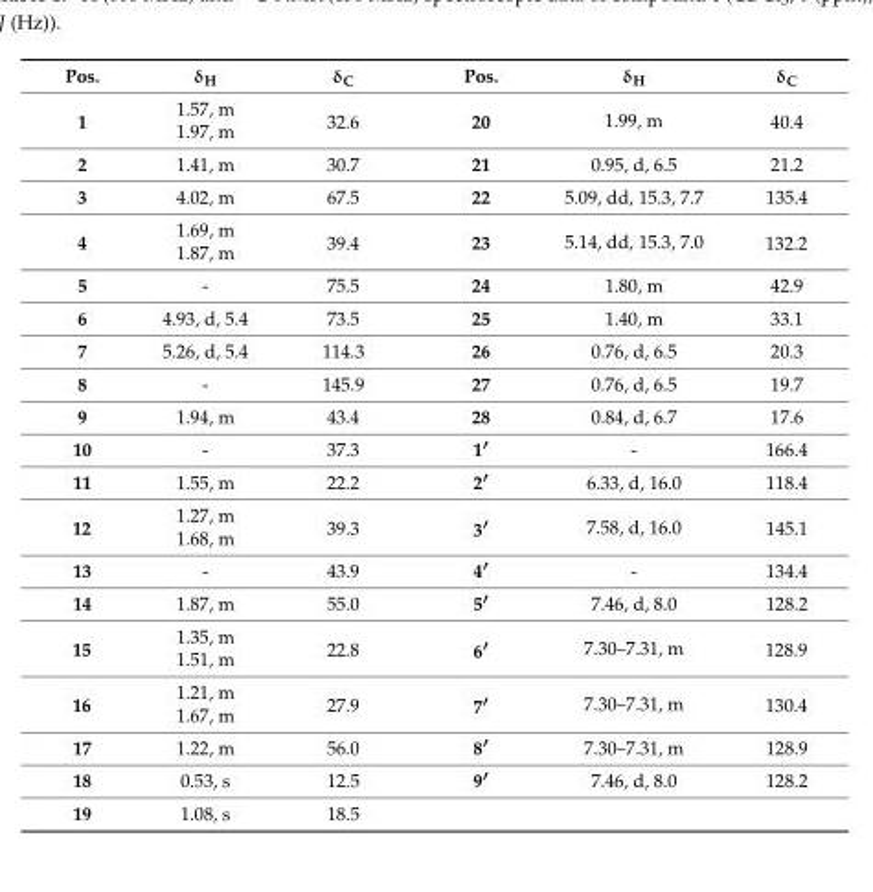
<table><thead><tr><td>Pos.</td><td>δ<sub>H</sub></td><td>δ<sub>C</sub></td><td>Pos.</td><td>δ<sub>H</sub></td><td>δ<sub>C</sub></td></tr></thead><tbody><tr><td rowspan="2">1</td><td>1.57, m</td><td rowspan="2">32.6</td><td rowspan="2">20</td><td rowspan="2">1.99, m</td><td rowspan="2">40.4</td></tr><tr><td>1.97, m</td></tr><tr><td>2</td><td>1.41, m</td><td>30.7</td><td>21</td><td>0.95, d, 6.5</td><td>21.2</td></tr><tr><td>3</td><td>4.02, m</td><td>67.5</td><td>22</td><td>5.09, dd, 15.3, 7.7</td><td>135.4</td></tr><tr><td rowspan="2">4</td><td>1.69, m</td><td rowspan="2">39.4</td><td rowspan="2">23</td><td rowspan="2">5.14, dd, 15.3, 7.0</td><td rowspan="2">132.2</td></tr><tr><td>1.87, m</td></tr><tr><td>5</td><td>-</td><td>75.5</td><td>24</td><td>1.80, m</td><td>42.9</td></tr><tr><td>6</td><td>4.93, d, 5.4</td><td>73.5</td><td>25</td><td>1.40, m</td><td>33.1</td></tr><tr><td>7</td><td>5.26, d, 5.4</td><td>114.3</td><td>26</td><td>0.76, d, 6.5</td><td>20.3</td></tr><tr><td>8</td><td>-</td><td>145.9</td><td>27</td><td>0.76, d, 6.5</td><td>19.7</td></tr><tr><td>9</td><td>1.94, m</td><td>43.4</td><td>28</td><td>0.84, d, 6.7</td><td>17.6</td></tr><tr><td>10</td><td>-</td><td>37.3</td><td>1′</td><td>-</td><td>166.4</td></tr><tr><td>11</td><td>1.55, m</td><td>22.2</td><td>2′</td><td>6.33, d, 16.0</td><td>118.4</td></tr><tr><td rowspan="2">12</td><td>1.27, m</td><td rowspan="2">39.3</td><td rowspan="2">3′</td><td rowspan="2">7.58, d, 16.0</td><td rowspan="2">145.1</td></tr><tr><td>1.68, m</td></tr><tr><td>13</td><td>-</td><td>43.9</td><td>4′</td><td>-</td><td>134.4</td></tr><tr><td>14</td><td>1.87, m</td><td>55.0</td><td>5′</td><td>7.46, d, 8.0</td><td>128.2</td></tr><tr><td rowspan="2">15</td><td>1.35, m</td><td rowspan="2">22.8</td><td rowspan="2">6′</td><td rowspan="2">7.30–7.31, m</td><td rowspan="2">128.9</td></tr><tr><td>1.51, m</td></tr><tr><td rowspan="2">16</td><td>1.21, m</td><td rowspan="2">27.9</td><td rowspan="2">7′</td><td rowspan="2">7.30–7.31, m</td><td rowspan="2">130.4</td></tr><tr><td>1.67, m</td></tr><tr><td>17</td><td>1.22, m</td><td>56.0</td><td>8′</td><td>7.30–7.31, m</td><td>128.9</td></tr><tr><td>18</td><td>0.53, s</td><td>12.5</td><td>9′</td><td>7.46, d, 8.0</td><td>128.2</td></tr><tr><td>19</td><td>1.08, s</td><td>18.5</td><td></td><td></td><td></td></tr></tbody></table>